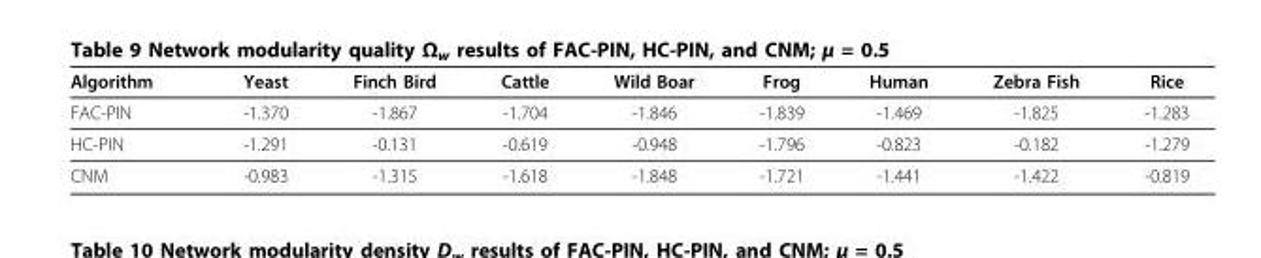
<table><thead><tr><td>Algorithm</td><td>Yeast</td><td>Finch Bird</td><td>Cattle</td><td>Wild Boar</td><td>Frog</td><td>Human</td><td>Zebra Fish</td><td>Rice</td></tr></thead><tbody><tr><td>FAC-PIN</td><td>-1.370</td><td>-1.867</td><td>-1.704</td><td>-1.846</td><td>-1.839</td><td>-1.469</td><td>-1.825</td><td>-1.283</td></tr><tr><td>HC-PIN</td><td>-1.291</td><td>-0.131</td><td>-0.619</td><td>-0.948</td><td>-1.796</td><td>-0.823</td><td>-0.182</td><td>-1.279</td></tr><tr><td>CNM</td><td>-0.983</td><td>-1.315</td><td>-1.618</td><td>-1.848</td><td>-1.721</td><td>-1.441</td><td>-1.422</td><td>-0.819</td></tr></tbody></table>